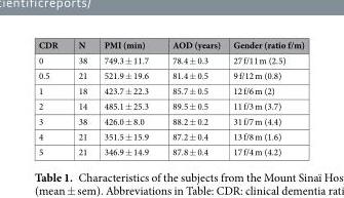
<table><thead><tr><td>CDR</td><td>N</td><td>PMI (min)</td><td>AOD (years)</td><td>Gender (ratio f/m)</td></tr></thead><tbody><tr><td>0</td><td>38</td><td>749.3 ± 11.7</td><td>78.4 ± 0.3</td><td>27 f/11 m (2.5)</td></tr><tr><td>0.5</td><td>21</td><td>521.9 ± 19.6</td><td>81.4 ± 0.5</td><td>9 f/12 m (0.8)</td></tr><tr><td>1</td><td>18</td><td>423.7 ± 22.3</td><td>85.7 ± 0.5</td><td>12 f/6 m (2)</td></tr><tr><td>2</td><td>14</td><td>485.1 ± 25.3</td><td>89.5 ± 0.5</td><td>11 f/3 m (3.7)</td></tr><tr><td>3</td><td>38</td><td>426.0 ± 8.0</td><td>88.2 ± 0.2</td><td>31 f/7 m (4.4)</td></tr><tr><td>4</td><td>21</td><td>351.5 ± 15.9</td><td>87.2 ± 0.4</td><td>13 f/8 m (1.6)</td></tr><tr><td>5</td><td>21</td><td>346.9 ± 14.9</td><td>87.8 ± 0.4</td><td>17 f/4 m (4.2)</td></tr></tbody></table>